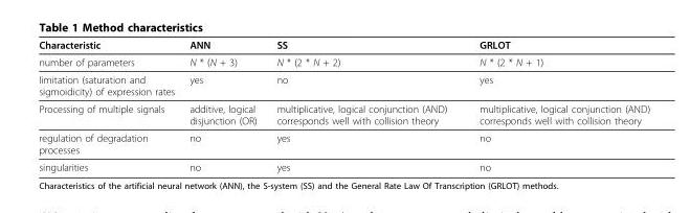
<table><thead><tr><td>Characteristic</td><td>ANN</td><td>SS</td><td>GRLOT</td></tr></thead><tbody><tr><td>number of parameters</td><td>N * (N + 3)</td><td>N * (2 * N + 2)</td><td>N * (2 * N + 1)</td></tr><tr><td>limitation (saturation and sigmoidicity) of expression rates</td><td>yes</td><td>no</td><td>yes</td></tr><tr><td>Processing of multiple signals</td><td>additive, logical disjunction (OR)</td><td>multiplicative, logical conjunction (AND) corresponds well with collision theory</td><td>multiplicative, logical conjunction (AND) corresponds well with collision theory</td></tr><tr><td>regulation of degradation processes</td><td>no</td><td>yes</td><td>no</td></tr><tr><td>singularities</td><td>no</td><td>yes</td><td>no</td></tr></tbody></table>